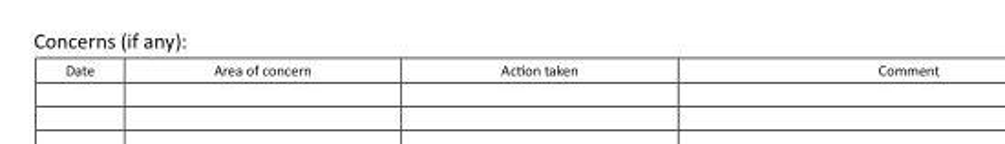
<table><thead><tr><td>Date</td><td>Area of concern</td><td>Action taken</td><td>Comment</td></tr></thead><tbody></tbody></table>